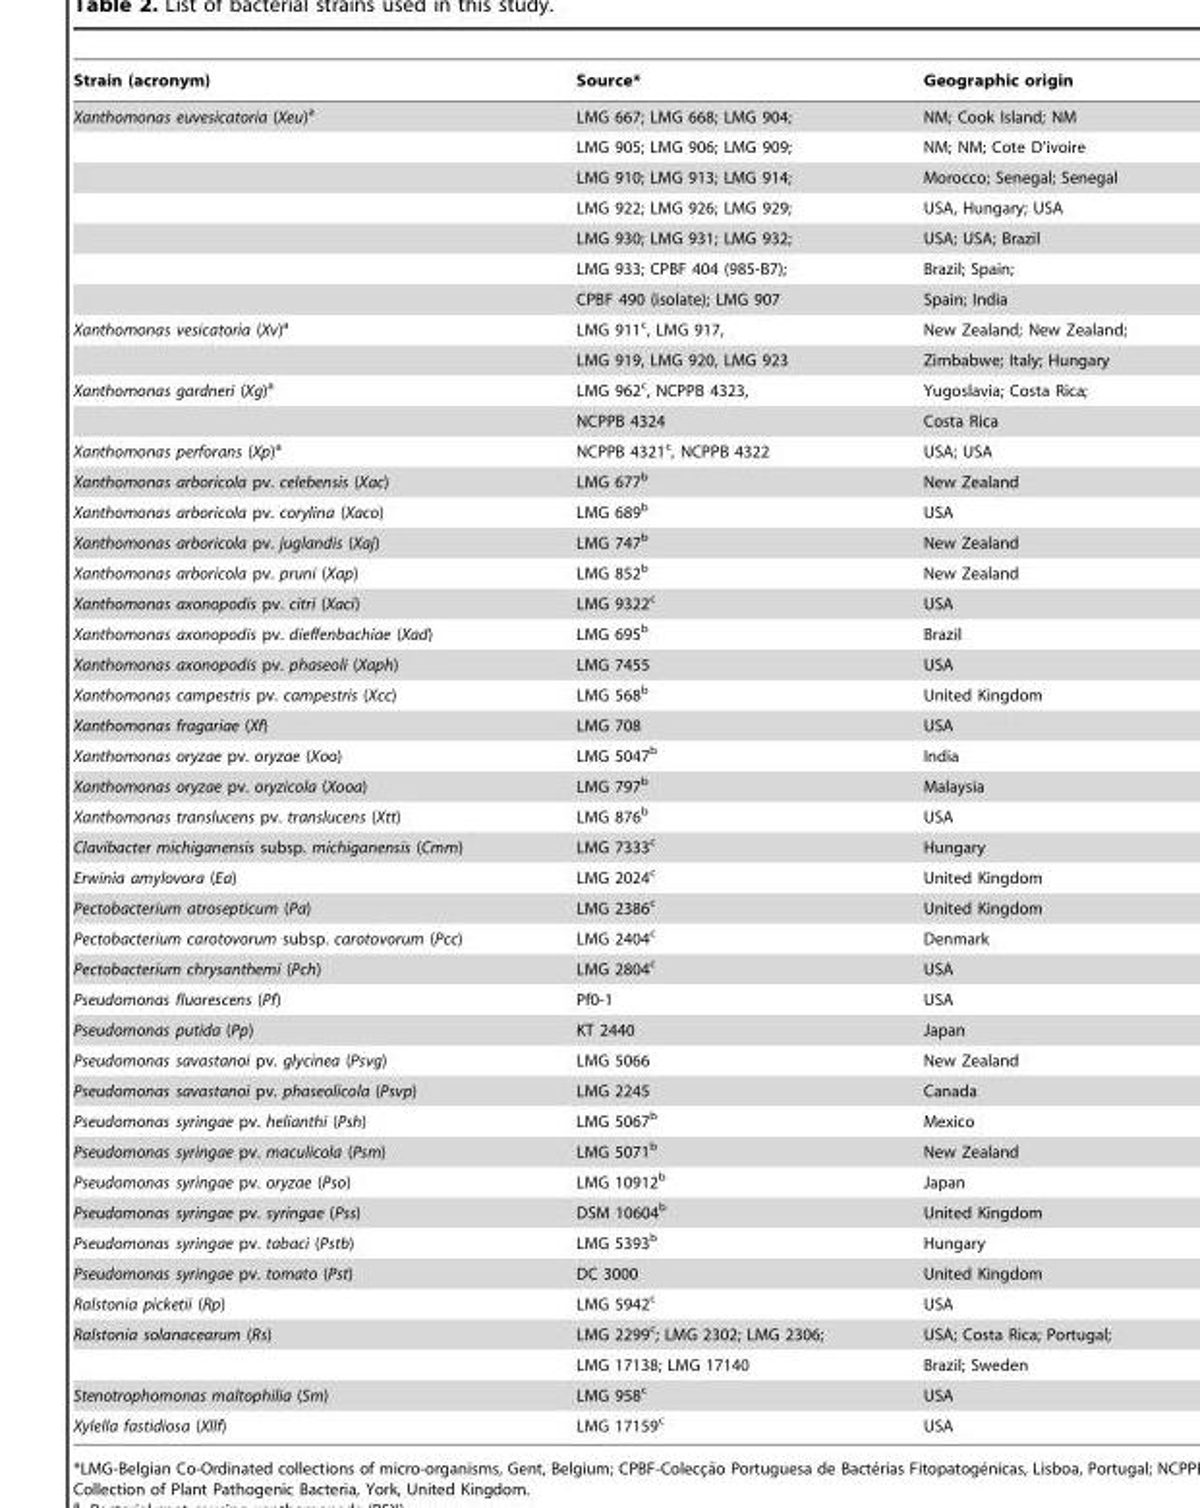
<table><thead><tr><td>Strain (acronym)</td><td>Source*</td><td>Geographic origin</td></tr></thead><tbody><tr><td rowspan="7">Xanthomonas euvesicatoria (Xeu)<sup>a</sup></td><td>LMG 667; LMG 668; LMG 904;</td><td>NM; Cook Island; NM</td></tr><tr><td>LMG 905; LMG 906; LMG 909;</td><td>NM; NM; Cote D’ivoire</td></tr><tr><td>LMG 910; LMG 913; LMG 914;</td><td>Morocco; Senegal; Senegal</td></tr><tr><td>LMG 922; LMG 926; LMG 929;</td><td>USA, Hungary; USA</td></tr><tr><td>LMG 930; LMG 931; LMG 932;</td><td>USA; USA; Brazil</td></tr><tr><td>LMG 933; CPBF 404 (985-B7);</td><td>Brazil; Spain;</td></tr><tr><td>CPBF 490 (isolate); LMG 907</td><td>Spain; India</td></tr><tr><td rowspan="2">Xanthomonas vesicatoria (Xv)<sup>a</sup></td><td>LMG 911<sup>c</sup>, LMG 917,</td><td>New Zealand; New Zealand;</td></tr><tr><td>LMG 919, LMG 920, LMG 923</td><td>Zimbabwe; Italy; Hungary</td></tr><tr><td rowspan="2">Xanthomonas gardneri (Xg)<sup>a</sup></td><td>LMG 962<sup>c</sup>, NCPPB 4323,</td><td>Yugoslavia; Costa Rica;</td></tr><tr><td>NCPPB 4324</td><td>Costa Rica</td></tr><tr><td>Xanthomonas perforans (Xp)<sup>a</sup></td><td>NCPPB 4321<sup>c</sup>, NCPPB 4322</td><td>USA; USA</td></tr><tr><td>Xanthomonas arboricola pv. celebensis (Xac)</td><td>LMG 677<sup>b</sup></td><td>New Zealand</td></tr><tr><td>Xanthomonas arboricola pv. corylina (Xaco)</td><td>LMG 689<sup>b</sup></td><td>USA</td></tr><tr><td>Xanthomonas arboricola pv. juglandis (Xaj)</td><td>LMG 747<sup>b</sup></td><td>New Zealand</td></tr><tr><td>Xanthomonas arboricola pv. pruni (Xap)</td><td>LMG 852<sup>b</sup></td><td>New Zealand</td></tr><tr><td>Xanthomonas axonopodis pv. citri (Xaci)</td><td>LMG 9322<sup>c</sup></td><td>USA</td></tr><tr><td>Xanthomonas axonopodis pv. dieffenbachiae (Xad)</td><td>LMG 695<sup>b</sup></td><td>Brazil</td></tr><tr><td>Xanthomonas axonopodis pv. phaseoli (Xaph)</td><td>LMG 7455</td><td>USA</td></tr><tr><td>Xanthomonas campestris pv. campestris (Xcc)</td><td>LMG 568<sup>b</sup></td><td>United Kingdom</td></tr><tr><td>Xanthomonas fragariae (Xf)</td><td>LMG 708</td><td>USA</td></tr><tr><td>Xanthomonas oryzae pv. oryzae (Xoo)</td><td>LMG 5047<sup>b</sup></td><td>India</td></tr><tr><td>Xanthomonas oryzae pv. oryzicola (Xooa)</td><td>LMG 797<sup>b</sup></td><td>Malaysia</td></tr><tr><td>Xanthomonas translucens pv. translucens (Xtt)</td><td>LMG 876<sup>b</sup></td><td>USA</td></tr><tr><td>Clavibacter michiganensis subsp. michiganensis (Cmm)</td><td>LMG 7333<sup>c</sup></td><td>Hungary</td></tr><tr><td>Erwinia amylovora (Ea)</td><td>LMG 2024<sup>c</sup></td><td>United Kingdom</td></tr><tr><td>Pectobacterium atrosepticum (Pa)</td><td>LMG 2386<sup>c</sup></td><td>United Kingdom</td></tr><tr><td>Pectobacterium carotovorum subsp. carotovorum (Pcc)</td><td>LMG 2404<sup>c</sup></td><td>Denmark</td></tr><tr><td>Pectobacterium chrysanthemi (Pch)</td><td>LMG 2804<sup>c</sup></td><td>USA</td></tr><tr><td>Pseudomonas fluorescens (Pf)</td><td>Pf0-1</td><td>USA</td></tr><tr><td>Pseudomonas putida (Pp)</td><td>KT 2440</td><td>Japan</td></tr><tr><td>Pseudomonas savastanoi pv. glycinea (Psvg)</td><td>LMG 5066</td><td>New Zealand</td></tr><tr><td>Pseudomonas savastanoi pv. phaseolicola (Psvp)</td><td>LMG 2245</td><td>Canada</td></tr><tr><td>Pseudomonas syringae pv. helianthi (Psh)</td><td>LMG 5067<sup>b</sup></td><td>Mexico</td></tr><tr><td>Pseudomonas syringae pv. maculicola (Psm)</td><td>LMG 5071<sup>b</sup></td><td>New Zealand</td></tr><tr><td>Pseudomonas syringae pv. oryzae (Pso)</td><td>LMG 10912<sup>b</sup></td><td>Japan</td></tr><tr><td>Pseudomonas syringae pv. syringae (Pss)</td><td>DSM 10604<sup>b</sup></td><td>United Kingdom</td></tr><tr><td>Pseudomonas syringae pv. tabaci (Pstb)</td><td>LMG 5393<sup>b</sup></td><td>Hungary</td></tr><tr><td>Pseudomonas syringae pv. tomato (Pst)</td><td>DC 3000</td><td>United Kingdom</td></tr><tr><td>Ralstonia picketii (Rp)</td><td>LMG 5942<sup>c</sup></td><td>USA</td></tr><tr><td rowspan="2">Ralstonia solanacearum (Rs)</td><td>LMG 2299<sup>c</sup>; LMG 2302; LMG 2306;</td><td>USA; Costa Rica; Portugal;</td></tr><tr><td>LMG 17138; LMG 17140</td><td>Brazil; Sweden</td></tr><tr><td>Stenotrophomonas maltophilia (Sm)</td><td>LMG 958<sup>c</sup></td><td>USA</td></tr><tr><td>Xylella fastidiosa (Xllf)</td><td>LMG 17159<sup>c</sup></td><td>USA</td></tr></tbody></table>